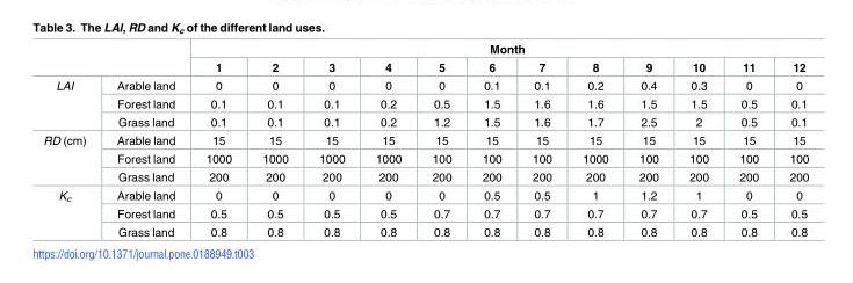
<table><thead><tr><td rowspan="2"></td><td rowspan="2"></td><td colspan="12">Month</td></tr><tr><td>1</td><td>2</td><td>3</td><td>4</td><td>5</td><td>6</td><td>7</td><td>8</td><td>9</td><td>10</td><td>11</td><td>12</td></tr></thead><tbody><tr><td rowspan="3">LAI</td><td>Arable land</td><td>0</td><td>0</td><td>0</td><td>0</td><td>0</td><td>0.1</td><td>0.1</td><td>0.2</td><td>0.4</td><td>0.3</td><td>0</td><td>0</td></tr><tr><td>Forest land</td><td>0.1</td><td>0.1</td><td>0.1</td><td>0.2</td><td>0.5</td><td>1.5</td><td>1.6</td><td>1.6</td><td>1.5</td><td>1.5</td><td>0.5</td><td>0.1</td></tr><tr><td>Grass land</td><td>0.1</td><td>0.1</td><td>0.1</td><td>0.2</td><td>1.2</td><td>1.5</td><td>1.6</td><td>1.7</td><td>2.5</td><td>2</td><td>0.5</td><td>0.1</td></tr><tr><td rowspan="3">RD (cm)</td><td>Arable land</td><td>15</td><td>15</td><td>15</td><td>15</td><td>15</td><td>15</td><td>15</td><td>15</td><td>15</td><td>15</td><td>15</td><td>15</td></tr><tr><td>Forest land</td><td>1000</td><td>1000</td><td>1000</td><td>1000</td><td>100</td><td>100</td><td>100</td><td>1000</td><td>100</td><td>100</td><td>100</td><td>100</td></tr><tr><td>Grass land</td><td>200</td><td>200</td><td>200</td><td>200</td><td>200</td><td>200</td><td>200</td><td>200</td><td>200</td><td>200</td><td>200</td><td>200</td></tr><tr><td rowspan="3">K<sub>c</sub></td><td>Arable land</td><td>0</td><td>0</td><td>0</td><td>0</td><td>0</td><td>0.5</td><td>0.5</td><td>1</td><td>1.2</td><td>1</td><td>0</td><td>0</td></tr><tr><td>Forest land</td><td>0.5</td><td>0.5</td><td>0.5</td><td>0.5</td><td>0.7</td><td>0.7</td><td>0.7</td><td>0.7</td><td>0.7</td><td>0.7</td><td>0.5</td><td>0.5</td></tr><tr><td>Grass land</td><td>0.8</td><td>0.8</td><td>0.8</td><td>0.8</td><td>0.8</td><td>0.8</td><td>0.8</td><td>0.8</td><td>0.8</td><td>0.8</td><td>0.8</td><td>0.8</td></tr></tbody></table>